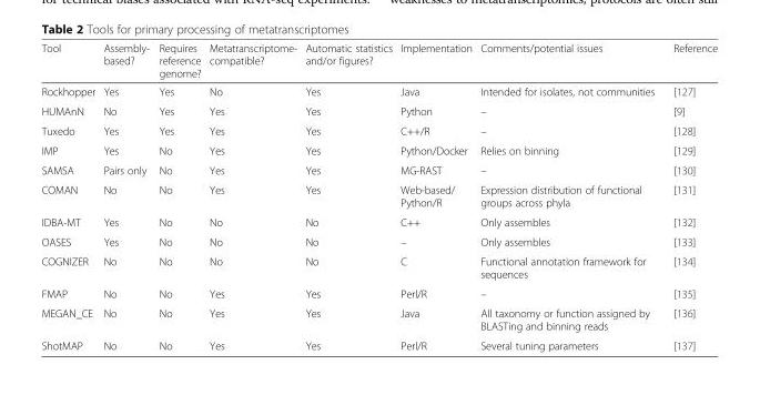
<table><thead><tr><td>Tool</td><td>Assembly- based?</td><td>Requires reference genome?</td><td>Metatranscriptome- compatible?</td><td>Automatic statistics and/or figures?</td><td>Implementation</td><td>Comments/potential issues</td><td>Reference</td></tr></thead><tbody><tr><td>Rockhopper</td><td>Yes</td><td>Yes</td><td>No</td><td>Yes</td><td>Java</td><td>Intended for isolates, not communities</td><td>[127]</td></tr><tr><td>HUMAnN</td><td>No</td><td>Yes</td><td>Yes</td><td>Yes</td><td>Python</td><td>–</td><td>[9]</td></tr><tr><td>Tuxedo</td><td>Yes</td><td>Yes</td><td>Yes</td><td>Yes</td><td>C++/R</td><td>–</td><td>[128]</td></tr><tr><td>IMP</td><td>Yes</td><td>No</td><td>Yes</td><td>Yes</td><td>Python/Docker</td><td>Relies on binning</td><td>[129]</td></tr><tr><td>SAMSA</td><td>Pairs only</td><td>No</td><td>Yes</td><td>Yes</td><td>MG-RAST</td><td>–</td><td>[130]</td></tr><tr><td>COMAN</td><td>No</td><td>No</td><td>Yes</td><td>Yes</td><td>Web-based/ Python/R</td><td>Expression distribution of functional groups across phyla</td><td>[131]</td></tr><tr><td>IDBA-MT</td><td>Yes</td><td>No</td><td>No</td><td>No</td><td>C++</td><td>Only assembles</td><td>[132]</td></tr><tr><td>OASES</td><td>Yes</td><td>No</td><td>No</td><td>No</td><td>–</td><td>Only assembles</td><td>[133]</td></tr><tr><td>COGNIZER</td><td>No</td><td>No</td><td>No</td><td>No</td><td>C</td><td>Functional annotation framework for sequences</td><td>[134]</td></tr><tr><td>FMAP</td><td>No</td><td>No</td><td>Yes</td><td>Yes</td><td>Perl/R</td><td>–</td><td>[135]</td></tr><tr><td>MEGAN_CE</td><td>No</td><td>No</td><td>Yes</td><td>Yes</td><td>Java</td><td>All taxonomy or function assigned by BLASTing and binning reads</td><td>[136]</td></tr><tr><td>ShotMAP</td><td>No</td><td>No</td><td>Yes</td><td>Yes</td><td>Perl/R</td><td>Several tuning parameters</td><td>[137]</td></tr></tbody></table>